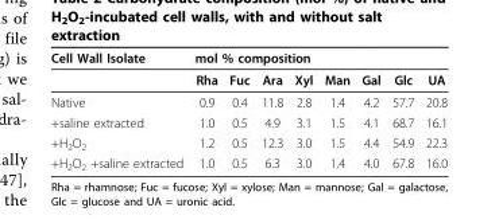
<table><thead><tr><td rowspan="2">Cell Wall Isolate</td><td colspan="8">mol % composition</td></tr><tr><td>Rha</td><td>Fuc</td><td>Ara</td><td>Xyl</td><td>Man</td><td>Gal</td><td>Glc</td><td>UA</td></tr></thead><tbody><tr><td>Native</td><td>0.9</td><td>0.4</td><td>11.8</td><td>2.8</td><td>1.4</td><td>4.2</td><td>57.7</td><td>20.8</td></tr><tr><td>+saline extracted</td><td>1.0</td><td>0.5</td><td>4.9</td><td>3.1</td><td>1.5</td><td>4.1</td><td>68.7</td><td>16.1</td></tr><tr><td>+H<sub>2</sub>O<sub>2</sub></td><td>1.2</td><td>0.5</td><td>12.3</td><td>3.0</td><td>1.5</td><td>4.4</td><td>54.9</td><td>22.3</td></tr><tr><td>+H<sub>2</sub>O<sub>2</sub> +saline extracted</td><td>1.0</td><td>0.5</td><td>6.3</td><td>3.0</td><td>1.4</td><td>4.0</td><td>67.8</td><td>16.0</td></tr></tbody></table>